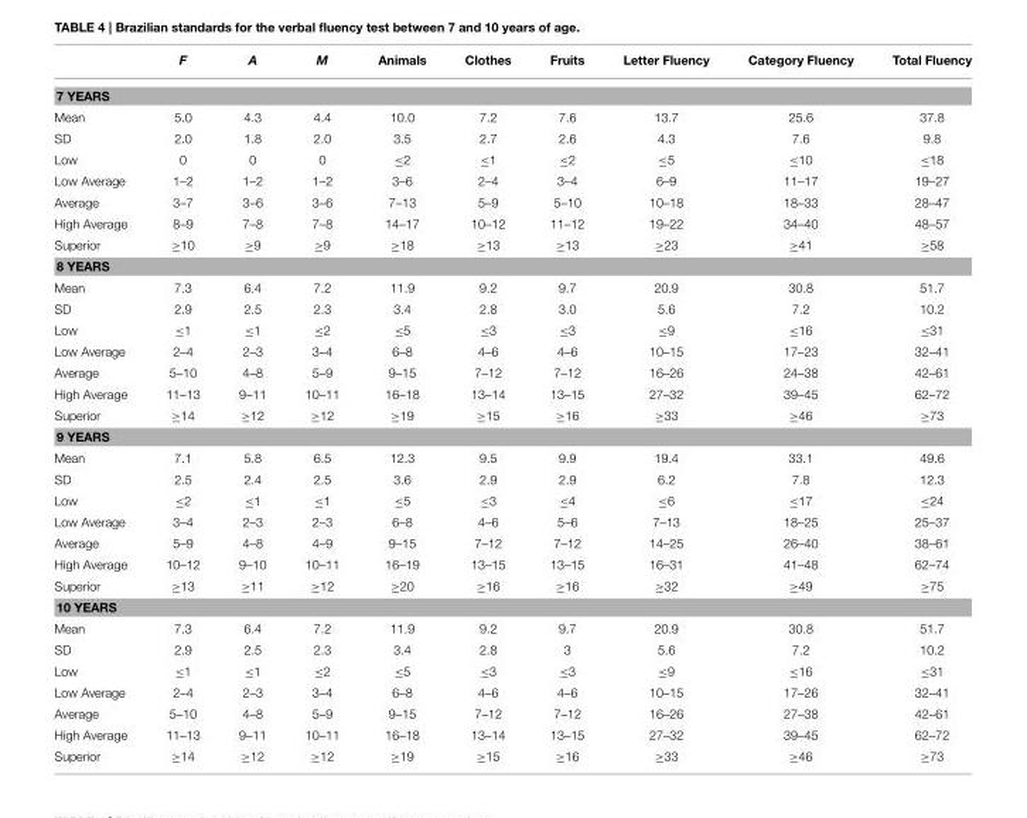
<table><thead><tr><td></td><td>F</td><td>A</td><td>M</td><td>Animals</td><td>Clothes</td><td>Fruits</td><td>Letter Fluency</td><td>Category Fluency</td><td>Total Fluency</td></tr></thead><tbody><tr><td colspan="10">7 YEARS</td></tr><tr><td>Mean</td><td>5.0</td><td>4.3</td><td>4.4</td><td>10.0</td><td>7.2</td><td>7.6</td><td>13.7</td><td>25.6</td><td>37.8</td></tr><tr><td>SD</td><td>2.0</td><td>1.8</td><td>2.0</td><td>3.5</td><td>2.7</td><td>2.6</td><td>4.3</td><td>7.6</td><td>9.8</td></tr><tr><td>Low</td><td>0</td><td>0</td><td>0</td><td>≤2</td><td>≤1</td><td>≤2</td><td>≤5</td><td>≤10</td><td>≤18</td></tr><tr><td>Low Average</td><td>1–2</td><td>1–2</td><td>1–2</td><td>3–6</td><td>2–4</td><td>3–4</td><td>6–9</td><td>11–17</td><td>19–27</td></tr><tr><td>Average</td><td>3–7</td><td>3–6</td><td>3–6</td><td>7–13</td><td>5–9</td><td>5–10</td><td>10–18</td><td>18–33</td><td>28–47</td></tr><tr><td>High Average</td><td>8–9</td><td>7–8</td><td>7–8</td><td>14–17</td><td>10–12</td><td>11–12</td><td>19–22</td><td>34–40</td><td>48–57</td></tr><tr><td>Superior</td><td>≥10</td><td>≥9</td><td>≥9</td><td>≥18</td><td>≥13</td><td>≥13</td><td>≥23</td><td>≥41</td><td>≥58</td></tr><tr><td colspan="10">8 YEARS</td></tr><tr><td>Mean</td><td>7.3</td><td>6.4</td><td>7.2</td><td>11.9</td><td>9.2</td><td>9.7</td><td>20.9</td><td>30.8</td><td>51.7</td></tr><tr><td>SD</td><td>2.9</td><td>2.5</td><td>2.3</td><td>3.4</td><td>2.8</td><td>3.0</td><td>5.6</td><td>7.2</td><td>10.2</td></tr><tr><td>Low</td><td>≤1</td><td>≤1</td><td>≤2</td><td>≤5</td><td>≤3</td><td>≤3</td><td>≤9</td><td>≤16</td><td>≤31</td></tr><tr><td>Low Average</td><td>2–4</td><td>2–3</td><td>3–4</td><td>6–8</td><td>4–6</td><td>4–6</td><td>10–15</td><td>17–23</td><td>32–41</td></tr><tr><td>Average</td><td>5–10</td><td>4–8</td><td>5–9</td><td>9–15</td><td>7–12</td><td>7–12</td><td>16–26</td><td>24–38</td><td>42–61</td></tr><tr><td>High Average</td><td>11–13</td><td>9–11</td><td>10–11</td><td>16–18</td><td>13–14</td><td>13–15</td><td>27–32</td><td>39–45</td><td>62–72</td></tr><tr><td>Superior</td><td>≥14</td><td>≥12</td><td>≥12</td><td>≥19</td><td>≥15</td><td>≥16</td><td>≥33</td><td>≥46</td><td>≥73</td></tr><tr><td colspan="10">9 YEARS</td></tr><tr><td>Mean</td><td>7.1</td><td>5.8</td><td>6.5</td><td>12.3</td><td>9.5</td><td>9.9</td><td>19.4</td><td>33.1</td><td>49.6</td></tr><tr><td>SD</td><td>2.5</td><td>2.4</td><td>2.5</td><td>3.6</td><td>2.9</td><td>2.9</td><td>6.2</td><td>7.8</td><td>12.3</td></tr><tr><td>Low</td><td>≤2</td><td>≤1</td><td>≤1</td><td>≤5</td><td>≤3</td><td>≤4</td><td>≤6</td><td>≤17</td><td>≤24</td></tr><tr><td>Low Average</td><td>3–4</td><td>2–3</td><td>2–3</td><td>6–8</td><td>4–6</td><td>5–6</td><td>7–13</td><td>18–25</td><td>25–37</td></tr><tr><td>Average</td><td>5–9</td><td>4–8</td><td>4–9</td><td>9–15</td><td>7–12</td><td>7–12</td><td>14–25</td><td>26–40</td><td>38–61</td></tr><tr><td>High Average</td><td>10–12</td><td>9–10</td><td>10–11</td><td>16–19</td><td>13–15</td><td>13–15</td><td>16–31</td><td>41–48</td><td>62–74</td></tr><tr><td>Superior</td><td>≥13</td><td>≥11</td><td>≥12</td><td>≥20</td><td>≥16</td><td>≥16</td><td>≥32</td><td>≥49</td><td>≥75</td></tr><tr><td colspan="10">10 YEARS</td></tr><tr><td>Mean</td><td>7.3</td><td>6.4</td><td>7.2</td><td>11.9</td><td>9.2</td><td>9.7</td><td>20.9</td><td>30.8</td><td>51.7</td></tr><tr><td>SD</td><td>2.9</td><td>2.5</td><td>2.3</td><td>3.4</td><td>2.8</td><td>3</td><td>5.6</td><td>7.2</td><td>10.2</td></tr><tr><td>Low</td><td>≤1</td><td>≤1</td><td>≤2</td><td>≤5</td><td>≤3</td><td>≤3</td><td>≤9</td><td>≤16</td><td>≤31</td></tr><tr><td>Low Average</td><td>2–4</td><td>2–3</td><td>3–4</td><td>6–8</td><td>4–6</td><td>4–6</td><td>10–15</td><td>17–26</td><td>32–41</td></tr><tr><td>Average</td><td>5–10</td><td>4–8</td><td>5–9</td><td>9–15</td><td>7–12</td><td>7–12</td><td>16–26</td><td>27–38</td><td>42–61</td></tr><tr><td>High Average</td><td>11–13</td><td>9–11</td><td>10–11</td><td>16–18</td><td>13–14</td><td>13–15</td><td>27–32</td><td>39–45</td><td>62–72</td></tr><tr><td>Superior</td><td>≥14</td><td>≥12</td><td>≥12</td><td>≥19</td><td>≥15</td><td>≥16</td><td>≥33</td><td>≥46</td><td>≥73</td></tr></tbody></table>